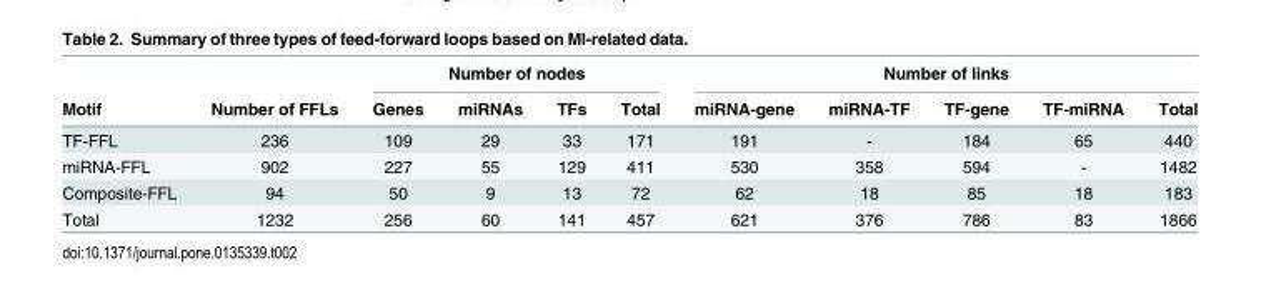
<table><thead><tr><td rowspan="2">Motif</td><td rowspan="2">Number of FFLs</td><td colspan="4">Number of nodes</td><td colspan="5">Number of links</td></tr><tr><td>Genes</td><td>miRNAs</td><td>TFs</td><td>Total</td><td>miRNA-gene</td><td>miRNA-TF</td><td>TF-gene</td><td>TF-miRNA</td><td>Total</td></tr></thead><tbody><tr><td>TF-FFL</td><td>236</td><td>109</td><td>29</td><td>33</td><td>171</td><td>191</td><td>-</td><td>184</td><td>65</td><td>440</td></tr><tr><td>miRNA-FFL</td><td>902</td><td>227</td><td>55</td><td>129</td><td>411</td><td>530</td><td>358</td><td>594</td><td>-</td><td>1482</td></tr><tr><td>Composite-FFL</td><td>94</td><td>50</td><td>9</td><td>13</td><td>72</td><td>62</td><td>18</td><td>85</td><td>18</td><td>183</td></tr><tr><td>Total</td><td>1232</td><td>256</td><td>60</td><td>141</td><td>457</td><td>621</td><td>376</td><td>786</td><td>83</td><td>1866</td></tr></tbody></table>